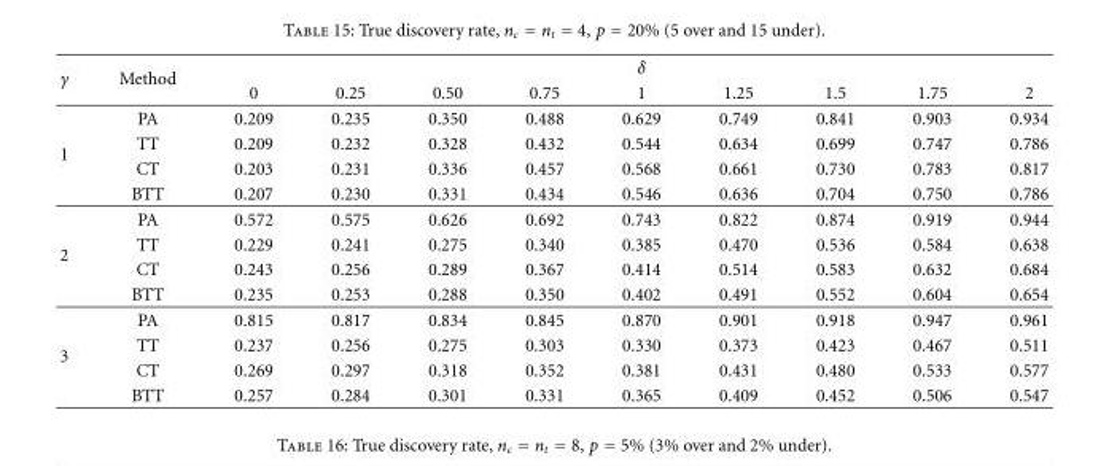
<table><thead><tr><td rowspan="2">γ</td><td rowspan="2">Method</td><td colspan="9">δ</td></tr><tr><td>0</td><td>0.25</td><td>0.50</td><td>0.75</td><td>1</td><td>1.25</td><td>1.5</td><td>1.75</td><td>2</td></tr></thead><tbody><tr><td rowspan="4">1</td><td>PA</td><td>0.209</td><td>0.235</td><td>0.350</td><td>0.488</td><td>0.629</td><td>0.749</td><td>0.841</td><td>0.903</td><td>0.934</td></tr><tr><td>TT</td><td>0.209</td><td>0.232</td><td>0.328</td><td>0.432</td><td>0.544</td><td>0.634</td><td>0.699</td><td>0.747</td><td>0.786</td></tr><tr><td>CT</td><td>0.203</td><td>0.231</td><td>0.336</td><td>0.457</td><td>0.568</td><td>0.661</td><td>0.730</td><td>0.783</td><td>0.817</td></tr><tr><td>BTT</td><td>0.207</td><td>0.230</td><td>0.331</td><td>0.434</td><td>0.546</td><td>0.636</td><td>0.704</td><td>0.750</td><td>0.786</td></tr><tr><td rowspan="4">2</td><td>PA</td><td>0.572</td><td>0.575</td><td>0.626</td><td>0.692</td><td>0.743</td><td>0.822</td><td>0.874</td><td>0.919</td><td>0.944</td></tr><tr><td>TT</td><td>0.229</td><td>0.241</td><td>0.275</td><td>0.340</td><td>0.385</td><td>0.470</td><td>0.536</td><td>0.584</td><td>0.638</td></tr><tr><td>CT</td><td>0.243</td><td>0.256</td><td>0.289</td><td>0.367</td><td>0.414</td><td>0.514</td><td>0.583</td><td>0.632</td><td>0.684</td></tr><tr><td>BTT</td><td>0.235</td><td>0.253</td><td>0.288</td><td>0.350</td><td>0.402</td><td>0.491</td><td>0.552</td><td>0.604</td><td>0.654</td></tr><tr><td rowspan="4">3</td><td>PA</td><td>0.815</td><td>0.817</td><td>0.834</td><td>0.845</td><td>0.870</td><td>0.901</td><td>0.918</td><td>0.947</td><td>0.961</td></tr><tr><td>TT</td><td>0.237</td><td>0.256</td><td>0.275</td><td>0.303</td><td>0.330</td><td>0.373</td><td>0.423</td><td>0.467</td><td>0.511</td></tr><tr><td>CT</td><td>0.269</td><td>0.297</td><td>0.318</td><td>0.352</td><td>0.381</td><td>0.431</td><td>0.480</td><td>0.533</td><td>0.577</td></tr><tr><td>BTT</td><td>0.257</td><td>0.284</td><td>0.301</td><td>0.331</td><td>0.365</td><td>0.409</td><td>0.452</td><td>0.506</td><td>0.547</td></tr></tbody></table>